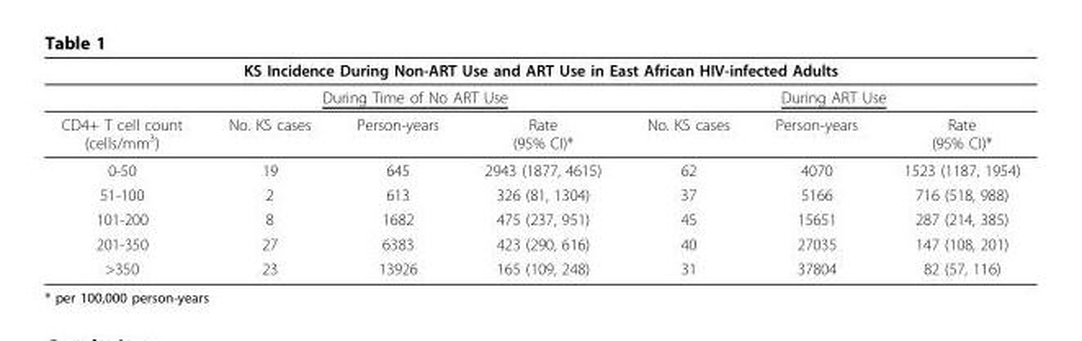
<table><thead><tr><td colspan="7">KS Incidence During Non-ART Use and ART Use in East African HIV-infected Adults</td></tr><tr><td rowspan="2">CD4+ T cell count (cells/mm<sup>3</sup>)</td><td colspan="3">During Time of No ART Use</td><td colspan="3">During ART Use</td></tr><tr><td>No. KS cases</td><td>Person-years</td><td>Rate (95% CI)*</td><td>No. KS cases</td><td>Person-years</td><td>Rate (95% CI)*</td></tr></thead><tbody><tr><td>0-50</td><td>19</td><td>645</td><td>2943 (1877, 4615)</td><td>62</td><td>4070</td><td>1523 (1187, 1954)</td></tr><tr><td>51-100</td><td>2</td><td>613</td><td>326 (81, 1304)</td><td>37</td><td>5166</td><td>716 (518, 988)</td></tr><tr><td>101-200</td><td>8</td><td>1682</td><td>475 (237, 951)</td><td>45</td><td>15651</td><td>287 (214, 385)</td></tr><tr><td>201-350</td><td>27</td><td>6383</td><td>423 (290, 616)</td><td>40</td><td>27035</td><td>147 (108, 201)</td></tr><tr><td>&gt;350</td><td>23</td><td>13926</td><td>165 (109, 248)</td><td>31</td><td>37804</td><td>82 (57, 116)</td></tr></tbody></table>